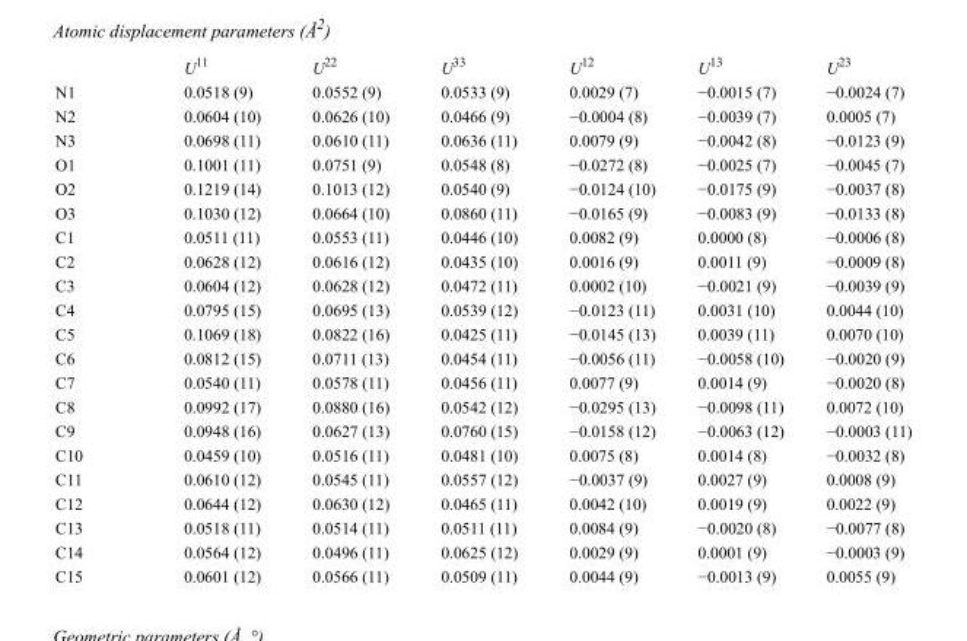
<table><thead><tr><td></td><td>U<sup>11</sup></td><td>U<sup>22</sup></td><td>U<sup>33</sup></td><td>U<sup>12</sup></td><td>U<sup>13</sup></td><td>U<sup>23</sup></td></tr></thead><tbody><tr><td>N1</td><td>0.0518 (9)</td><td>0.0552 (9)</td><td>0.0533 (9)</td><td>0.0029 (7)</td><td>−0.0015 (7)</td><td>−0.0024 (7)</td></tr><tr><td>N2</td><td>0.0604 (10)</td><td>0.0626 (10)</td><td>0.0466 (9)</td><td>−0.0004 (8)</td><td>−0.0039 (7)</td><td>0.0005 (7)</td></tr><tr><td>N3</td><td>0.0698 (11)</td><td>0.0610 (11)</td><td>0.0636 (11)</td><td>0.0079 (9)</td><td>−0.0042 (8)</td><td>−0.0123 (9)</td></tr><tr><td>O1</td><td>0.1001 (11)</td><td>0.0751 (9)</td><td>0.0548 (8)</td><td>−0.0272 (8)</td><td>−0.0025 (7)</td><td>−0.0045 (7)</td></tr><tr><td>O2</td><td>0.1219 (14)</td><td>0.1013 (12)</td><td>0.0540 (9)</td><td>−0.0124 (10)</td><td>−0.0175 (9)</td><td>−0.0037 (8)</td></tr><tr><td>O3</td><td>0.1030 (12)</td><td>0.0664 (10)</td><td>0.0860 (11)</td><td>−0.0165 (9)</td><td>−0.0083 (9)</td><td>−0.0133 (8)</td></tr><tr><td>C1</td><td>0.0511 (11)</td><td>0.0553 (11)</td><td>0.0446 (10)</td><td>0.0082 (9)</td><td>0.0000 (8)</td><td>−0.0006 (8)</td></tr><tr><td>C2</td><td>0.0628 (12)</td><td>0.0616 (12)</td><td>0.0435 (10)</td><td>0.0016 (9)</td><td>0.0011 (9)</td><td>−0.0009 (8)</td></tr><tr><td>C3</td><td>0.0604 (12)</td><td>0.0628 (12)</td><td>0.0472 (11)</td><td>0.0002 (10)</td><td>−0.0021 (9)</td><td>−0.0039 (9)</td></tr><tr><td>C4</td><td>0.0795 (15)</td><td>0.0695 (13)</td><td>0.0539 (12)</td><td>−0.0123 (11)</td><td>0.0031 (10)</td><td>0.0044 (10)</td></tr><tr><td>C5</td><td>0.1069 (18)</td><td>0.0822 (16)</td><td>0.0425 (11)</td><td>−0.0145 (13)</td><td>0.0039 (11)</td><td>0.0070 (10)</td></tr><tr><td>C6</td><td>0.0812 (15)</td><td>0.0711 (13)</td><td>0.0454 (11)</td><td>−0.0056 (11)</td><td>−0.0058 (10)</td><td>−0.0020 (9)</td></tr><tr><td>C7</td><td>0.0540 (11)</td><td>0.0578 (11)</td><td>0.0456 (11)</td><td>0.0077 (9)</td><td>0.0014 (9)</td><td>−0.0020 (8)</td></tr><tr><td>C8</td><td>0.0992 (17)</td><td>0.0880 (16)</td><td>0.0542 (12)</td><td>−0.0295 (13)</td><td>−0.0098 (11)</td><td>0.0072 (10)</td></tr><tr><td>C9</td><td>0.0948 (16)</td><td>0.0627 (13)</td><td>0.0760 (15)</td><td>−0.0158 (12)</td><td>−0.0063 (12)</td><td>−0.0003 (11)</td></tr><tr><td>C10</td><td>0.0459 (10)</td><td>0.0516 (11)</td><td>0.0481 (10)</td><td>0.0075 (8)</td><td>0.0014 (8)</td><td>−0.0032 (8)</td></tr><tr><td>C11</td><td>0.0610 (12)</td><td>0.0545 (11)</td><td>0.0557 (12)</td><td>−0.0037 (9)</td><td>0.0027 (9)</td><td>0.0008 (9)</td></tr><tr><td>C12</td><td>0.0644 (12)</td><td>0.0630 (12)</td><td>0.0465 (11)</td><td>0.0042 (10)</td><td>0.0019 (9)</td><td>0.0022 (9)</td></tr><tr><td>C13</td><td>0.0518 (11)</td><td>0.0514 (11)</td><td>0.0511 (11)</td><td>0.0084 (9)</td><td>−0.0020 (8)</td><td>−0.0077 (8)</td></tr><tr><td>C14</td><td>0.0564 (12)</td><td>0.0496 (11)</td><td>0.0625 (12)</td><td>0.0029 (9)</td><td>0.0001 (9)</td><td>−0.0003 (9)</td></tr><tr><td>C15</td><td>0.0601 (12)</td><td>0.0566 (11)</td><td>0.0509 (11)</td><td>0.0044 (9)</td><td>−0.0013 (9)</td><td>0.0055 (9)</td></tr></tbody></table>